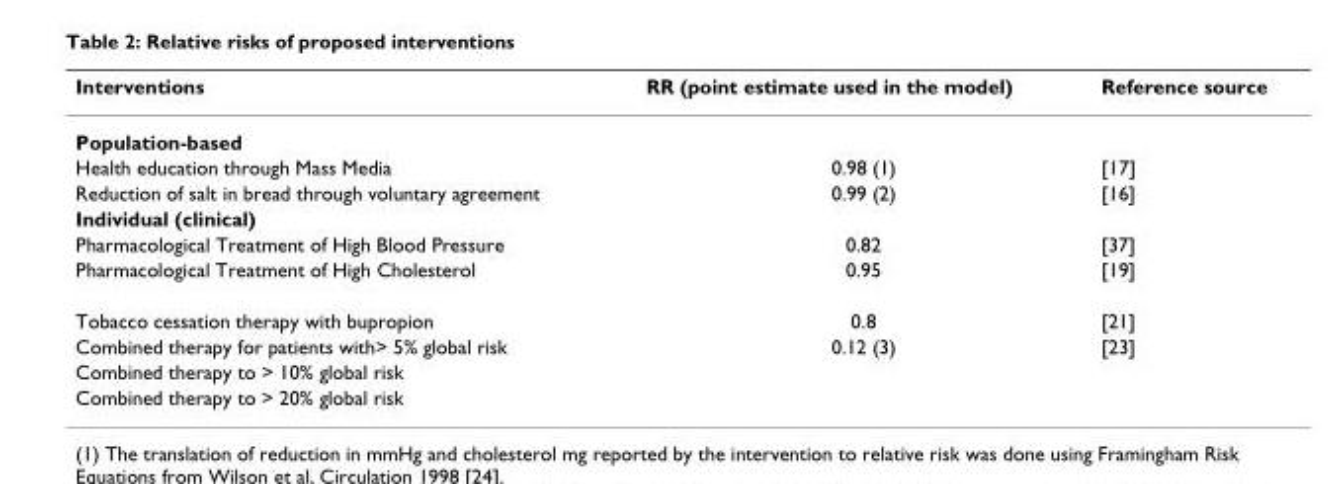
<table><thead><tr><td>Interventions</td><td>RR (point estimate used in the model)</td><td>Reference source</td></tr></thead><tbody><tr><td colspan="3">Population-based</td></tr><tr><td>Health education through Mass Media</td><td>0.98 (1)</td><td>[17]</td></tr><tr><td>Reduction of salt in bread through voluntary agreement</td><td>0.99 (2)</td><td>[16]</td></tr><tr><td colspan="3">Individual (clinical)</td></tr><tr><td>Pharmacological Treatment of High Blood Pressure</td><td>0.82</td><td>[37]</td></tr><tr><td>Pharmacological Treatment of High Cholesterol</td><td>0.95</td><td>[19]</td></tr><tr><td>Tobacco cessation therapy with bupropion</td><td>0.8</td><td>[21]</td></tr><tr><td>Combined therapy for patients with&gt; 5% global risk</td><td>0.12 (3)</td><td>[23]</td></tr><tr><td colspan="3">Combined therapy to &gt; 10% global risk</td></tr><tr><td>Combined therapy to &gt; 20% global risk</td><td></td><td></td></tr></tbody></table>